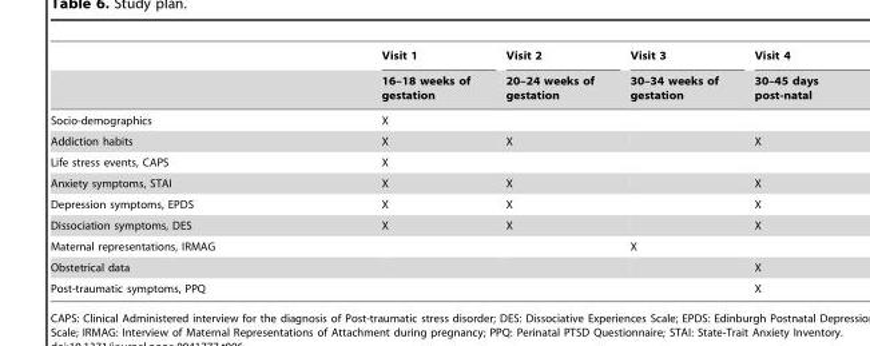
<table><thead><tr><td rowspan="2"></td><td rowspan="2">Visit 1 16–18 weeks of gestation</td><td rowspan="2">Visit 2 20–24 weeks of gestation</td><td rowspan="2">Visit 3 30–34 weeks of gestation</td><td rowspan="2">Visit 4 30–45 days post-natal</td></tr><tr></tr></thead><tbody><tr><td>Socio-demographics</td><td>X</td><td></td><td></td><td></td></tr><tr><td>Addiction habits</td><td>X</td><td>X</td><td></td><td>X</td></tr><tr><td>Life stress events, CAPS</td><td>X</td><td></td><td></td><td></td></tr><tr><td>Anxiety symptoms, STAI</td><td>X</td><td>X</td><td></td><td>X</td></tr><tr><td>Depression symptoms, EPDS</td><td>X</td><td>X</td><td></td><td>X</td></tr><tr><td>Dissociation symptoms, DES</td><td>X</td><td>X</td><td></td><td>X</td></tr><tr><td>Maternal representations, IRMAG</td><td></td><td></td><td>X</td><td></td></tr><tr><td>Obstetrical data</td><td></td><td></td><td></td><td>X</td></tr><tr><td>Post-traumatic symptoms, PPQ</td><td></td><td></td><td></td><td>X</td></tr></tbody></table>